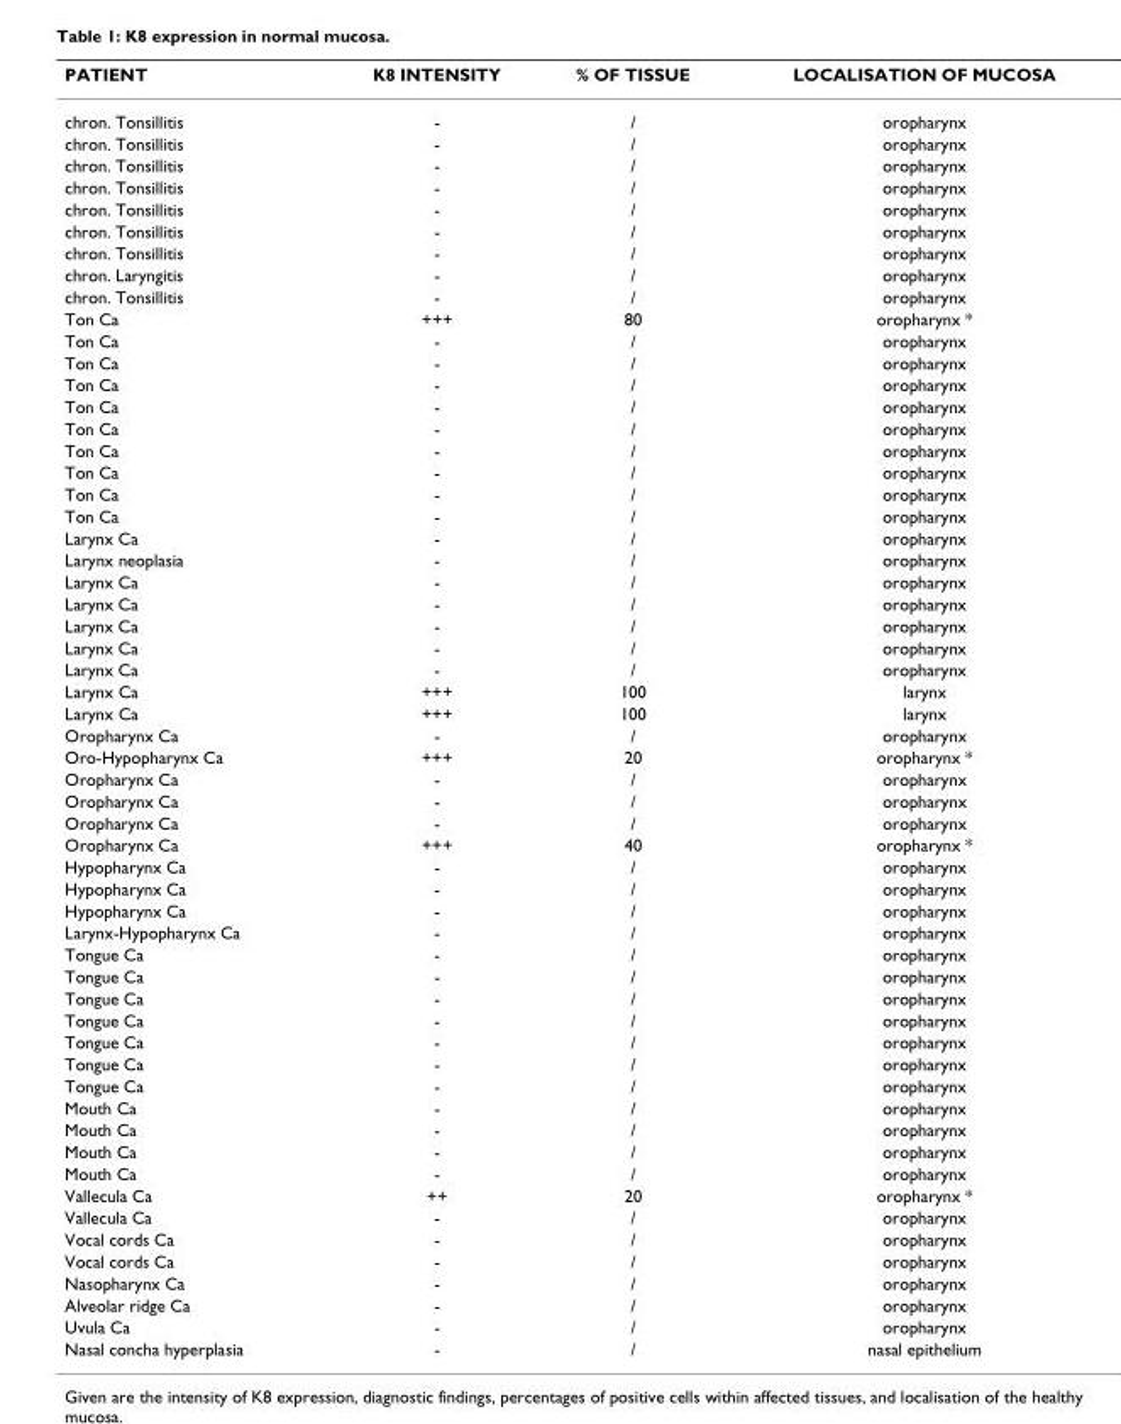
<table><thead><tr><td>PATIENT</td><td>K8 INTENSITY</td><td>% OF TISSUE</td><td>LOCALISATION OF MUCOSA</td></tr></thead><tbody><tr><td>chron. Tonsillitis</td><td>-</td><td>/</td><td>oropharynx</td></tr><tr><td>chron. Tonsillitis</td><td>-</td><td>/</td><td>oropharynx</td></tr><tr><td>chron. Tonsillitis</td><td>-</td><td>/</td><td>oropharynx</td></tr><tr><td>chron. Tonsillitis</td><td>-</td><td>/</td><td>oropharynx</td></tr><tr><td>chron. Tonsillitis</td><td>-</td><td>/</td><td>oropharynx</td></tr><tr><td>chron. Tonsillitis</td><td>-</td><td>/</td><td>oropharynx</td></tr><tr><td>chron. Tonsillitis</td><td>-</td><td>/</td><td>oropharynx</td></tr><tr><td>chron. Laryngitis</td><td>-</td><td>/</td><td>oropharynx</td></tr><tr><td>chron. Tonsillitis</td><td>-</td><td>/</td><td>oropharynx</td></tr><tr><td>Ton Ca</td><td>+++</td><td>80</td><td>oropharynx *</td></tr><tr><td>Ton Ca</td><td>-</td><td>/</td><td>oropharynx</td></tr><tr><td>Ton Ca</td><td>-</td><td>/</td><td>oropharynx</td></tr><tr><td>Ton Ca</td><td>-</td><td>/</td><td>oropharynx</td></tr><tr><td>Ton Ca</td><td>-</td><td>/</td><td>oropharynx</td></tr><tr><td>Ton Ca</td><td>-</td><td>/</td><td>oropharynx</td></tr><tr><td>Ton Ca</td><td>-</td><td>/</td><td>oropharynx</td></tr><tr><td>Ton Ca</td><td>-</td><td>/</td><td>oropharynx</td></tr><tr><td>Ton Ca</td><td>-</td><td>/</td><td>oropharynx</td></tr><tr><td>Ton Ca</td><td>-</td><td>/</td><td>oropharynx</td></tr><tr><td>Larynx Ca</td><td>-</td><td>/</td><td>oropharynx</td></tr><tr><td>Larynx neoplasia</td><td>-</td><td>/</td><td>oropharynx</td></tr><tr><td>Larynx Ca</td><td>-</td><td>/</td><td>oropharynx</td></tr><tr><td>Larynx Ca</td><td>-</td><td>/</td><td>oropharynx</td></tr><tr><td>Larynx Ca</td><td>-</td><td>/</td><td>oropharynx</td></tr><tr><td>Larynx Ca</td><td>-</td><td>/</td><td>oropharynx</td></tr><tr><td>Larynx Ca</td><td>-</td><td>/</td><td>oropharynx</td></tr><tr><td>Larynx Ca</td><td>+++</td><td>100</td><td>larynx</td></tr><tr><td>Larynx Ca</td><td>+++</td><td>100</td><td>larynx</td></tr><tr><td>Oropharynx Ca</td><td>-</td><td>/</td><td>oropharynx</td></tr><tr><td>Oro-Hypopharynx Ca</td><td>+++</td><td>20</td><td>oropharynx *</td></tr><tr><td>Oropharynx Ca</td><td>-</td><td>/</td><td>oropharynx</td></tr><tr><td>Oropharynx Ca</td><td>-</td><td>/</td><td>oropharynx</td></tr><tr><td>Oropharynx Ca</td><td>-</td><td>/</td><td>oropharynx</td></tr><tr><td>Oropharynx Ca</td><td>+++</td><td>40</td><td>oropharynx *</td></tr><tr><td>Hypopharynx Ca</td><td>-</td><td>/</td><td>oropharynx</td></tr><tr><td>Hypopharynx Ca</td><td>-</td><td>/</td><td>oropharynx</td></tr><tr><td>Hypopharynx Ca</td><td>-</td><td>/</td><td>oropharynx</td></tr><tr><td>Larynx-Hypopharynx Ca</td><td>-</td><td>/</td><td>oropharynx</td></tr><tr><td>Tongue Ca</td><td>-</td><td>/</td><td>oropharynx</td></tr><tr><td>Tongue Ca</td><td>-</td><td>/</td><td>oropharynx</td></tr><tr><td>Tongue Ca</td><td>-</td><td>/</td><td>oropharynx</td></tr><tr><td>Tongue Ca</td><td>-</td><td>/</td><td>oropharynx</td></tr><tr><td>Tongue Ca</td><td>-</td><td>/</td><td>oropharynx</td></tr><tr><td>Tongue Ca</td><td>-</td><td>/</td><td>oropharynx</td></tr><tr><td>Tongue Ca</td><td>-</td><td>/</td><td>oropharynx</td></tr><tr><td>Mouth Ca</td><td>-</td><td>/</td><td>oropharynx</td></tr><tr><td>Mouth Ca</td><td>-</td><td>/</td><td>oropharynx</td></tr><tr><td>Mouth Ca</td><td>-</td><td>/</td><td>oropharynx</td></tr><tr><td>Mouth Ca</td><td>-</td><td>/</td><td>oropharynx</td></tr><tr><td>Vallecula Ca</td><td>++</td><td>20</td><td>oropharynx *</td></tr><tr><td>Vallecula Ca</td><td>-</td><td>/</td><td>oropharynx</td></tr><tr><td>Vocal cords Ca</td><td>-</td><td>/</td><td>oropharynx</td></tr><tr><td>Vocal cords Ca</td><td>-</td><td>/</td><td>oropharynx</td></tr><tr><td>Nasopharynx Ca</td><td>-</td><td>/</td><td>oropharynx</td></tr><tr><td>Alveolar ridge Ca</td><td>-</td><td>/</td><td>oropharynx</td></tr><tr><td>Uvula Ca</td><td>-</td><td>/</td><td>oropharynx</td></tr><tr><td>Nasal concha hyperplasia</td><td>-</td><td>/</td><td>nasal epithelium</td></tr></tbody></table>